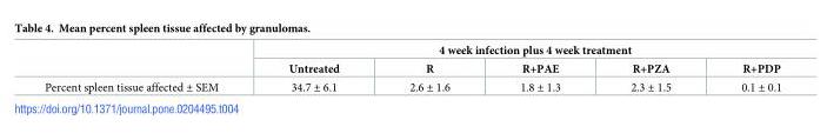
<table><thead><tr><td rowspan="2"></td><td colspan="5">4 week infection plus 4 week treatment</td></tr><tr><td>Untreated</td><td>R</td><td>R+PAE</td><td>R+PZA</td><td>R+PDP</td></tr></thead><tbody><tr><td>Percent spleen tissue affected ± SEM</td><td>34.7 ± 6.1</td><td>2.6 ± 1.6</td><td>1.8 ± 1.3</td><td>2.3 ± 1.5</td><td>0.1 ± 0.1</td></tr></tbody></table>